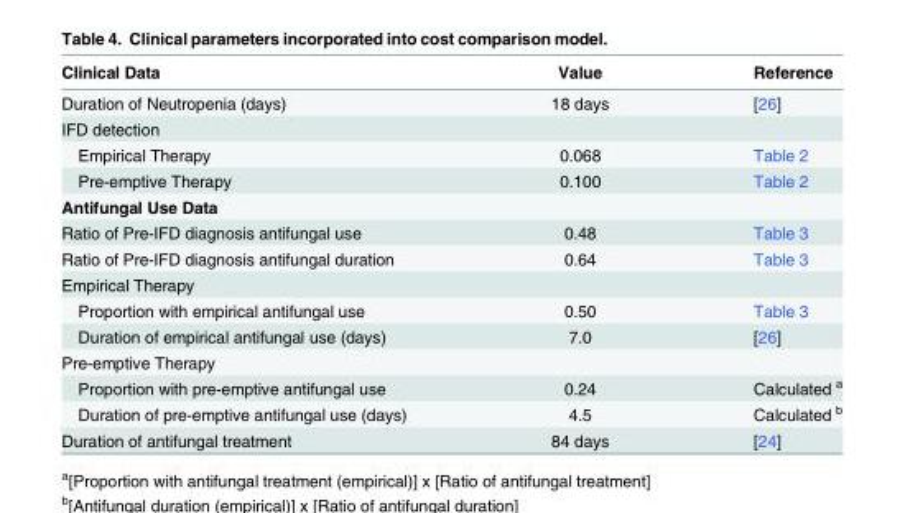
<table><thead><tr><td>Clinical Data</td><td>Value</td><td>Reference</td></tr></thead><tbody><tr><td>Duration of Neutropenia (days)</td><td>18 days</td><td>[26]</td></tr><tr><td colspan="3">IFD detection</td></tr><tr><td>Empirical Therapy</td><td>0.068</td><td>Table 2</td></tr><tr><td>Pre-emptive Therapy</td><td>0.100</td><td>Table 2</td></tr><tr><td colspan="3">Antifungal Use Data</td></tr><tr><td>Ratio of Pre-IFD diagnosis antifungal use</td><td>0.48</td><td>Table 3</td></tr><tr><td>Ratio of Pre-IFD diagnosis antifungal duration</td><td>0.64</td><td>Table 3</td></tr><tr><td colspan="3">Empirical Therapy</td></tr><tr><td>Proportion with empirical antifungal use</td><td>0.50</td><td>Table 3</td></tr><tr><td>Duration of empirical antifungal use (days)</td><td>7.0</td><td>[26]</td></tr><tr><td colspan="3">Pre-emptive Therapy</td></tr><tr><td>Proportion with pre-emptive antifungal use</td><td>0.24</td><td>Calculated <sup>a</sup></td></tr><tr><td>Duration of pre-emptive antifungal use (days)</td><td>4.5</td><td>Calculated <sup>b</sup></td></tr><tr><td>Duration of antifungal treatment</td><td>84 days</td><td>[24]</td></tr></tbody></table>